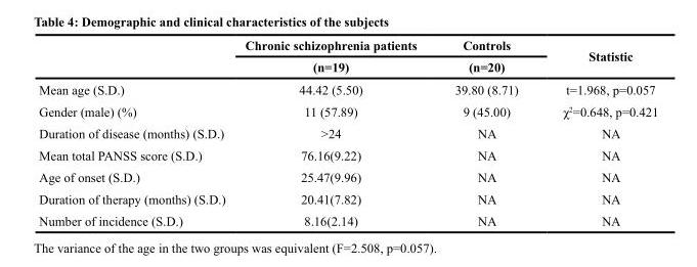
<table><thead><tr><td rowspan="2"></td><td rowspan="2">Chronic schizophrenia patients (n=19)</td><td rowspan="2">Controls (n=20)</td><td rowspan="2">Statistic</td></tr><tr></tr></thead><tbody><tr><td>Mean age (S.D.)</td><td>44.42 (5.50)</td><td>39.80 (8.71)</td><td>t=1.968, p=0.057</td></tr><tr><td>Gender (male) (%)</td><td>11 (57.89)</td><td>9 (45.00)</td><td>χ<sup>2</sup>=0.648, p=0.421</td></tr><tr><td>Duration of disease (months) (S.D.)</td><td>&gt;24</td><td>NA</td><td>NA</td></tr><tr><td>Mean total PANSS score (S.D.)</td><td>76.16(9.22)</td><td>NA</td><td>NA</td></tr><tr><td>Age of onset (S.D.)</td><td>25.47(9.96)</td><td>NA</td><td>NA</td></tr><tr><td>Duration of therapy (months) (S.D.)</td><td>20.41(7.82)</td><td>NA</td><td>NA</td></tr><tr><td>Number of incidence (S.D.)</td><td>8.16(2.14)</td><td>NA</td><td>NA</td></tr></tbody></table>